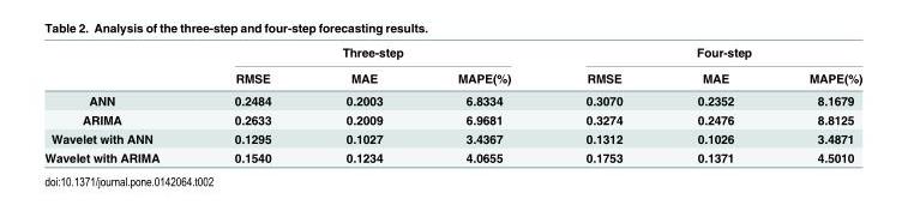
<table><thead><tr><td rowspan="2"></td><td colspan="3">Three-step</td><td colspan="3">Four-step</td></tr><tr><td>RMSE</td><td>MAE</td><td>MAPE(%)</td><td>RMSE</td><td>MAE</td><td>MAPE(%)</td></tr></thead><tbody><tr><td>ANN</td><td>0.2484</td><td>0.2003</td><td>6.8334</td><td>0.3070</td><td>0.2352</td><td>8.1679</td></tr><tr><td>ARIMA</td><td>0.2633</td><td>0.2009</td><td>6.9681</td><td>0.3274</td><td>0.2476</td><td>8.8125</td></tr><tr><td>Wavelet with ANN</td><td>0.1295</td><td>0.1027</td><td>3.4367</td><td>0.1312</td><td>0.1026</td><td>3.4871</td></tr><tr><td>Wavelet with ARIMA</td><td>0.1540</td><td>0.1234</td><td>4.0655</td><td>0.1753</td><td>0.1371</td><td>4.5010</td></tr></tbody></table>